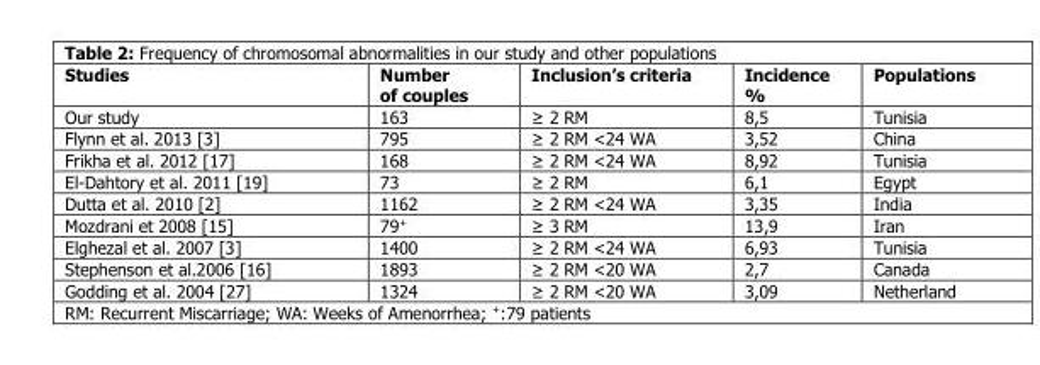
<table><thead><tr><td>Studies</td><td>Number of couples</td><td>Inclusion’s criteria</td><td>Incidence %</td><td>Populations</td></tr></thead><tbody><tr><td>Our study</td><td>163</td><td>≥ 2 RM</td><td>8,5</td><td>Tunisia</td></tr><tr><td>Flynn et al. 2013 [3]</td><td>795</td><td>≥ 2 RM &lt;24 WA</td><td>3,52</td><td>China</td></tr><tr><td>Frikha et al. 2012 [17]</td><td>168</td><td>≥ 2 RM &lt;24 WA</td><td>8,92</td><td>Tunisia</td></tr><tr><td>El-Dahtory et al. 2011 [19]</td><td>73</td><td>≥ 2 RM</td><td>6,1</td><td>Egypt</td></tr><tr><td>Dutta et al. 2010 [2]</td><td>1162</td><td>≥ 2 RM &lt;24 WA</td><td>3,35</td><td>India</td></tr><tr><td>Mozdrani et 2008 [15]</td><td>79<sup>+</sup></td><td>≥ 3 RM</td><td>13,9</td><td>Iran</td></tr><tr><td>Elghezal et al. 2007 [3]</td><td>1400</td><td>≥ 2 RM &lt;24 WA</td><td>6,93</td><td>Tunisia</td></tr><tr><td>Stephenson et al.2006 [16]</td><td>1893</td><td>≥ 2 RM &lt;20 WA</td><td>2,7</td><td>Canada</td></tr><tr><td>Godding et al. 2004 [27]</td><td>1324</td><td>≥ 2 RM &lt;20 WA</td><td>3,09</td><td>Netherland</td></tr></tbody></table>